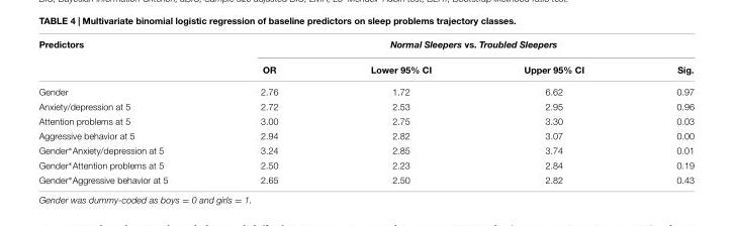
<table><thead><tr><td rowspan="2">Predictors</td><td colspan="4">Normal Sleepers vs. Troubled Sleepers</td></tr><tr><td>OR</td><td>Lower 95% CI</td><td>Upper 95% CI</td><td>Sig.</td></tr></thead><tbody><tr><td>Gender</td><td>2.76</td><td>1.72</td><td>6.62</td><td>0.97</td></tr><tr><td>Anxiety/depression at 5</td><td>2.72</td><td>2.53</td><td>2.95</td><td>0.96</td></tr><tr><td>Attention problems at 5</td><td>3.00</td><td>2.75</td><td>3.30</td><td>0.03</td></tr><tr><td>Aggressive behavior at 5</td><td>2.94</td><td>2.82</td><td>3.07</td><td>0.00</td></tr><tr><td>Gender∗Anxiety/depression at 5</td><td>3.24</td><td>2.85</td><td>3.74</td><td>0.01</td></tr><tr><td>Gender∗Attention problems at 5</td><td>2.50</td><td>2.23</td><td>2.84</td><td>0.19</td></tr><tr><td>Gender∗Aggressive behavior at 5</td><td>2.65</td><td>2.50</td><td>2.82</td><td>0.43</td></tr></tbody></table>